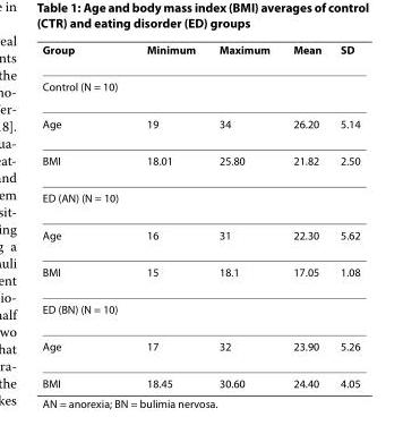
<table><thead><tr><td>Group</td><td>Minimum</td><td>Maximum</td><td>Mean</td><td>SD</td></tr></thead><tbody><tr><td colspan="5">Control (N = 10)</td></tr><tr><td>Age</td><td>19</td><td>34</td><td>26.20</td><td>5.14</td></tr><tr><td>BMI</td><td>18.01</td><td>25.80</td><td>21.82</td><td>2.50</td></tr><tr><td colspan="5">ED (AN) (N = 10)</td></tr><tr><td>Age</td><td>16</td><td>31</td><td>22.30</td><td>5.62</td></tr><tr><td>BMI</td><td>15</td><td>18.1</td><td>17.05</td><td>1.08</td></tr><tr><td colspan="5">ED (BN) (N = 10)</td></tr><tr><td>Age</td><td>17</td><td>32</td><td>23.90</td><td>5.26</td></tr><tr><td>BMI</td><td>18.45</td><td>30.60</td><td>24.40</td><td>4.05</td></tr></tbody></table>